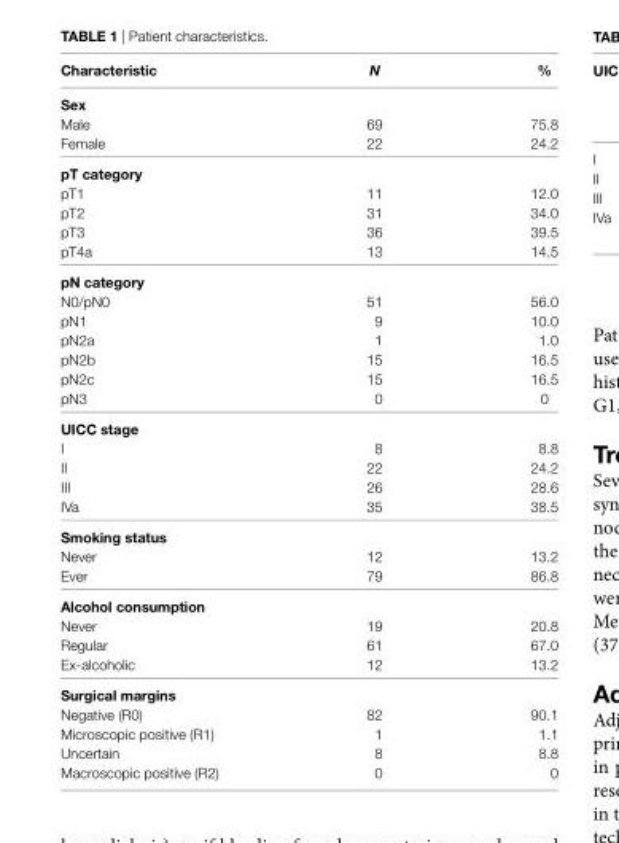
<table><thead><tr><td>characteristic</td><td>N</td><td>%</td></tr></thead><tbody><tr><td colspan="3">sex</td></tr><tr><td>Male</td><td>69</td><td>75.8</td></tr><tr><td>Female</td><td>22</td><td>24.2</td></tr><tr><td colspan="3">pT category</td></tr><tr><td>pT1</td><td>11</td><td>12.0</td></tr><tr><td>pT2</td><td>31</td><td>34.0</td></tr><tr><td>pT3</td><td>36</td><td>39.5</td></tr><tr><td>pT4a</td><td>13</td><td>14.5</td></tr><tr><td colspan="3">pn category</td></tr><tr><td>N0/pN0</td><td>51</td><td>56.0</td></tr><tr><td>pN1</td><td>9</td><td>10.0</td></tr><tr><td>pN2a</td><td>1</td><td>1.0</td></tr><tr><td>pN2b</td><td>15</td><td>16.5</td></tr><tr><td>pN2c</td><td>15</td><td>16.5</td></tr><tr><td>pN3</td><td>0</td><td>0</td></tr><tr><td colspan="3">Uicc stage</td></tr><tr><td>I</td><td>8</td><td>8.8</td></tr><tr><td>II</td><td>22</td><td>24.2</td></tr><tr><td>III</td><td>26</td><td>28.6</td></tr><tr><td>IVa</td><td>35</td><td>38.5</td></tr><tr><td colspan="3">smoking status</td></tr><tr><td>Never</td><td>12</td><td>13.2</td></tr><tr><td>Ever</td><td>79</td><td>86.8</td></tr><tr><td colspan="3">alcohol consumption</td></tr><tr><td>Never</td><td>19</td><td>20.8</td></tr><tr><td>Regular</td><td>61</td><td>67.0</td></tr><tr><td>Ex-alcoholic</td><td>12</td><td>13.2</td></tr><tr><td colspan="3">surgical margins</td></tr><tr><td>Negative (R0)</td><td>82</td><td>90.1</td></tr><tr><td>Microscopic positive (R1)</td><td>1</td><td>1.1</td></tr><tr><td>Uncertain</td><td>8</td><td>8.8</td></tr><tr><td>Macroscopic positive (R2)</td><td>0</td><td>0</td></tr></tbody></table>